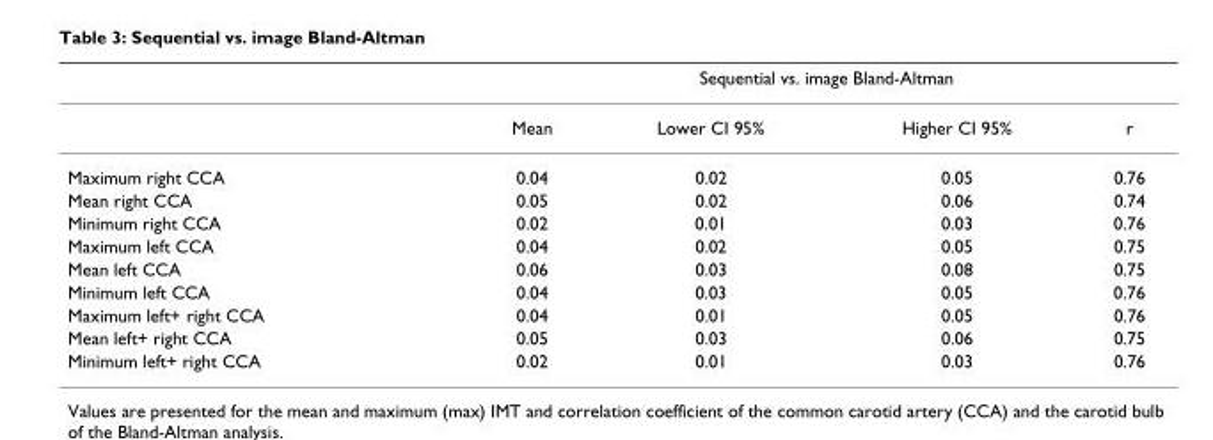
<table><thead><tr><td rowspan="2"></td><td colspan="4">Sequential vs. image Bland-Altman</td></tr><tr><td>Mean</td><td>Lower CI 95%</td><td>Higher CI 95%</td><td>r</td></tr></thead><tbody><tr><td>Maximum right CCA</td><td>0.04</td><td>0.02</td><td>0.05</td><td>0.76</td></tr><tr><td>Mean right CCA</td><td>0.05</td><td>0.02</td><td>0.06</td><td>0.74</td></tr><tr><td>Minimum right CCA</td><td>0.02</td><td>0.01</td><td>0.03</td><td>0.76</td></tr><tr><td>Maximum left CCA</td><td>0.04</td><td>0.02</td><td>0.05</td><td>0.75</td></tr><tr><td>Mean left CCA</td><td>0.06</td><td>0.03</td><td>0.08</td><td>0.75</td></tr><tr><td>Minimum left CCA</td><td>0.04</td><td>0.03</td><td>0.05</td><td>0.76</td></tr><tr><td>Maximum left+ right CCA</td><td>0.04</td><td>0.01</td><td>0.05</td><td>0.76</td></tr><tr><td>Mean left+ right CCA</td><td>0.05</td><td>0.03</td><td>0.06</td><td>0.75</td></tr><tr><td>Minimum left+ right CCA</td><td>0.02</td><td>0.01</td><td>0.03</td><td>0.76</td></tr></tbody></table>